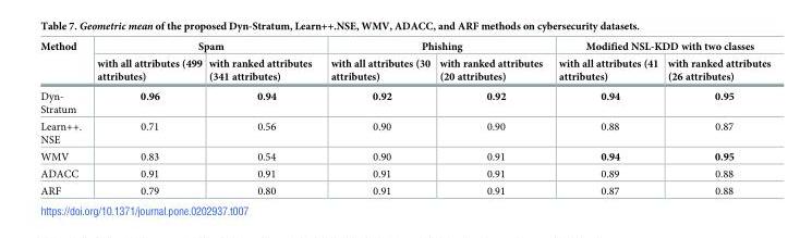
<table><thead><tr><td rowspan="2">Method</td><td colspan="2">Spam</td><td colspan="2">Phishing</td><td colspan="2">Modified NSL-KDD with two classes</td></tr><tr><td>with all attributes (499 attributes)</td><td>with ranked attributes (341 attributes)</td><td>with all attributes (30 attributes)</td><td>with ranked attributes (20 attributes)</td><td>with all attributes (41 attributes)</td><td>with ranked attributes (26 attributes)</td></tr></thead><tbody><tr><td>Dyn- Stratum</td><td>0.96</td><td>0.94</td><td>0.92</td><td>0.92</td><td>0.94</td><td>0.95</td></tr><tr><td>Learn++. NSE</td><td>0.71</td><td>0.56</td><td>0.90</td><td>0.90</td><td>0.88</td><td>0.87</td></tr><tr><td>WMV</td><td>0.83</td><td>0.54</td><td>0.90</td><td>0.91</td><td>0.94</td><td>0.95</td></tr><tr><td>ADACC</td><td>0.91</td><td>0.91</td><td>0.91</td><td>0.91</td><td>0.89</td><td>0.88</td></tr><tr><td>ARF</td><td>0.79</td><td>0.80</td><td>0.91</td><td>0.91</td><td>0.87</td><td>0.88</td></tr></tbody></table>